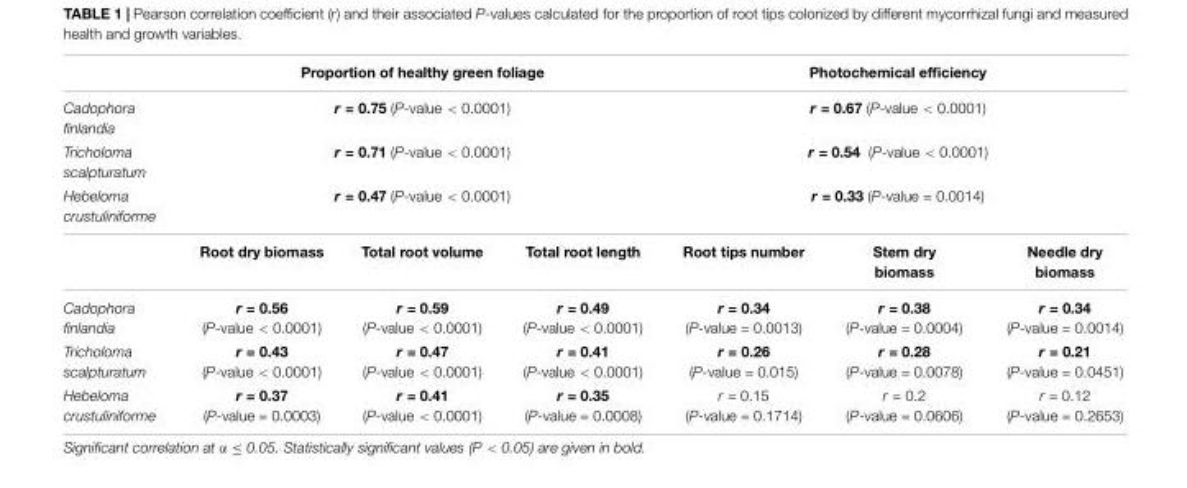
<table><thead><tr><td></td><td colspan="3">Proportion of healthy green foliage</td><td colspan="3">Photochemical efficiency</td></tr></thead><tbody><tr><td>Cadophora finlandia</td><td colspan="3">r = 0.75 (P-value &lt; 0.0001)</td><td colspan="3">r = 0.67 (P-value &lt; 0.0001)</td></tr><tr><td>Tricholoma scalpturatum</td><td colspan="3">r = 0.71 (P-value &lt; 0.0001)</td><td colspan="3">r = 0.54 (P-value &lt; 0.0001)</td></tr><tr><td rowspan="2">Hebeloma crustuliniforme</td><td colspan="3">r = 0.47 (P-value &lt; 0.0001)</td><td colspan="3">r = 0.33 (P-value = 0.0014)</td></tr><tr><td>Root dry biomass</td><td>Total root volume</td><td>Total root length</td><td>Root tips number</td><td>Stem dry biomass</td><td>Needle dry biomass</td></tr><tr><td>Cadophora finlandia</td><td>r = 0.56 (P-value &lt; 0.0001)</td><td>r = 0.59 (P-value &lt; 0.0001)</td><td>r = 0.49 (P-value &lt; 0.0001)</td><td>r = 0.34 (P-value = 0.0013)</td><td>r = 0.38 (P-value = 0.0004)</td><td>r = 0.34 (P-value = 0.0014)</td></tr><tr><td>Tricholoma scalpturatum</td><td>r = 0.43 (P-value &lt; 0.0001)</td><td>r = 0.47 (P-value &lt; 0.0001)</td><td>r = 0.41 (P-value &lt; 0.0001)</td><td>r = 0.26 (P-value = 0.015)</td><td>r = 0.28 (P-value = 0.0078)</td><td>r = 0.21 (P-value = 0.0451)</td></tr><tr><td>Hebeloma crustuliniforme</td><td>r = 0.37 (P-value = 0.0003)</td><td>r = 0.41 (P-value &lt; 0.0001)</td><td>r = 0.35 (P-value = 0.0008)</td><td>r = 0.15 (P-value = 0.1714)</td><td>r = 0.2 (P-value = 0.0606)</td><td>r = 0.12 (P-value = 0.2653)</td></tr></tbody></table>